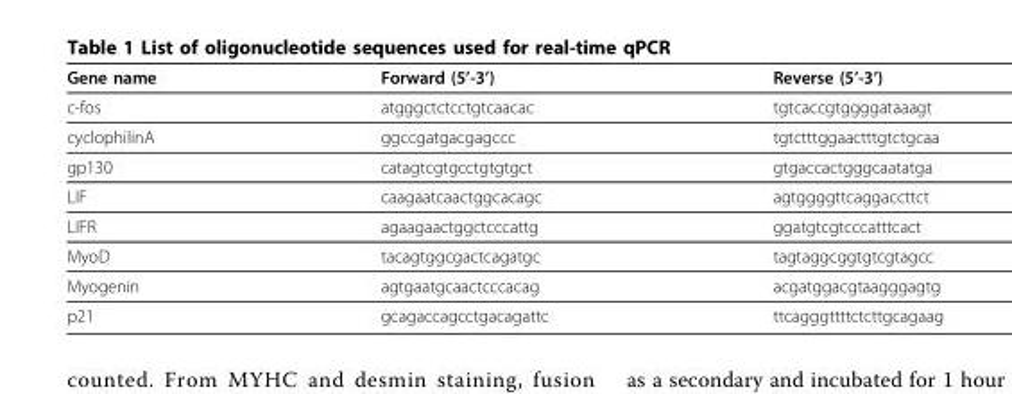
<table><thead><tr><td>Gene name</td><td>Forward (5’-3’)</td><td>Reverse (5’-3’)</td></tr></thead><tbody><tr><td>c-fos</td><td>atgggctctcctgtcaacac</td><td>tgtcaccgtggggataaagt</td></tr><tr><td>cyclophilinA</td><td>ggccgatgacgagccc</td><td>tgtctttggaactttgtctgcaa</td></tr><tr><td>gp130</td><td>catagtcgtgcctgtgtgct</td><td>gtgaccactgggcaatatga</td></tr><tr><td>LIF</td><td>caagaatcaactggcacagc</td><td>agtggggttcaggaccttct</td></tr><tr><td>LIFR</td><td>agaagaactggctcccattg</td><td>ggatgtcgtcccatttcact</td></tr><tr><td>MyoD</td><td>tacagtggcgactcagatgc</td><td>tagtaggcggtgtcgtagcc</td></tr><tr><td>Myogenin</td><td>agtgaatgcaactcccacag</td><td>acgatggacgtaagggagtg</td></tr><tr><td>p21</td><td>gcagaccagcctgacagattc</td><td>ttcagggttttctcttgcagaag</td></tr></tbody></table>